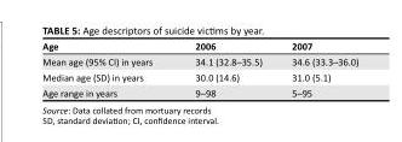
<table><thead><tr><td>Age</td><td>2006</td><td>2007</td></tr></thead><tbody><tr><td>Mean age (95% CI) in years</td><td>34.1 (32.8–35.5)</td><td>34.6 (33.3–36.0)</td></tr><tr><td>Median age (SD) in years</td><td>30.0 (14.6)</td><td>31.0 (5.1)</td></tr><tr><td>Age range in years</td><td>9–98</td><td>5–95</td></tr></tbody></table>